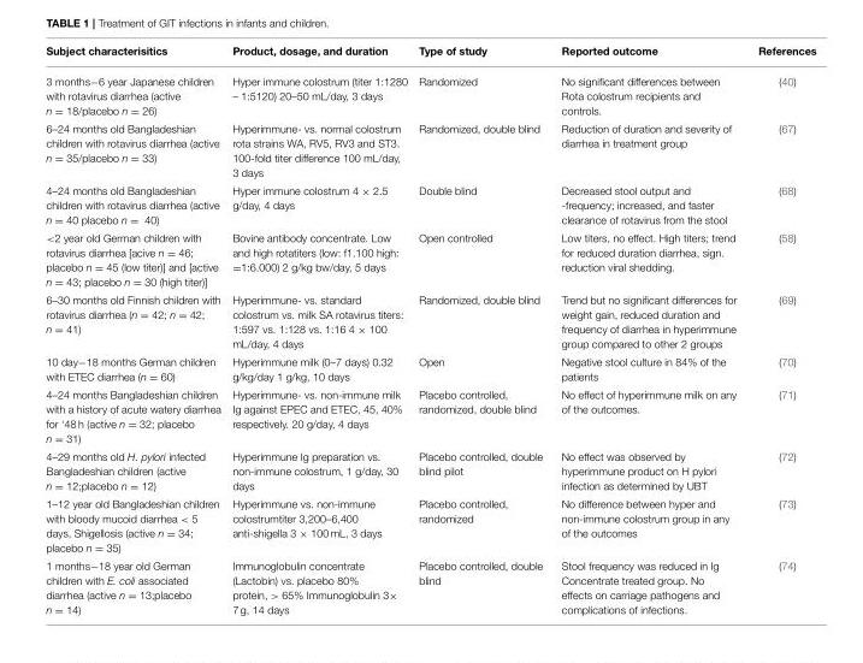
<table><thead><tr><td>Subject characterisitics</td><td>Product, dosage, and duration</td><td>Type of study</td><td>Reported outcome</td><td>References</td></tr></thead><tbody><tr><td>3 months−6 year Japanese children with rotavirus diarrhea (active n = 18/placebo n = 26)</td><td>Hyper immune colostrum (titer 1:1280 – 1:5120) 20–50 mL/day, 3 days</td><td>Randomized</td><td>No significant differences between Rota colostrum recipients and controls.</td><td>(40)</td></tr><tr><td>6–24 months old Bangladeshian children with rotavirus diarrhea (active n = 35/placebo n = 33)</td><td>Hyperimmune- vs. normal colostrum rota strains WA, RV5, RV3 and ST3. 100-fold titer difference 100 mL/day, 3 days</td><td>Randomized, double blind</td><td>Reduction of duration and severity of diarrhea in treatment group</td><td>(67)</td></tr><tr><td>4–24 months old Bangladeshian children with rotavirus diarrhea (active n = 40 placebo n = 40)</td><td>Hyper immune colostrum 4 × 2.5 g/day, 4 days</td><td>Double blind</td><td>Decreased stool output and -frequency; increased, and faster clearance of rotavirus from the stool</td><td>(68)</td></tr><tr><td>&lt;2 year old German children with rotavirus diarrhea [acive n = 46; placebo n = 45 (low titer)] and [active n = 43; placebo n = 30 (high titer)]</td><td>Bovine antibody concentrate. Low and high rotatiters (low: f1.100 high: =1:6.000) 2 g/kg bw/day, 5 days</td><td>Open controlled</td><td>Low titers, no effect. High titers; trend for reduced duration diarrhea, sign. reduction viral shedding.</td><td>(58)</td></tr><tr><td>6–30 months old Finnish children with rotavirus diarrhea (n = 42; n = 42; n = 41)</td><td>Hyperimmune- vs. standard colostrum vs. milk SA rotavirus titers: 1:597 vs. 1:128 vs. 1:16 4 × 100 mL/day, 4 days</td><td>Randomized, double blind</td><td>Trend but no significant differences for weight gain, reduced duration and frequency of diarrhea in hyperimmune group compared to other 2 groups</td><td>(69)</td></tr><tr><td>10 day−18 months German children with ETEC diarrhea (n = 60)</td><td>Hyperimmune milk (0–7 days) 0.32 g/kg/day 1 g/kg, 10 days</td><td>Open</td><td>Negative stool culture in 84% of the patients</td><td>(70)</td></tr><tr><td>4–24 months Bangladeshian children with a history of acute watery diarrhea for ‘48 h (active n = 32; placebo n = 31)</td><td>Hyperimmune- vs. non-immune milk Ig against EPEC and ETEC, 45, 40% respectively. 20 g/day, 4 days</td><td>Placebo controlled, randomized, double blind</td><td>No effect of hyperimmune milk on any of the outcomes.</td><td>(71)</td></tr><tr><td>4–29 months old H. pylori infected Bangladeshian children (active n = 12;placebo n = 12)</td><td>Hyperimmune Ig preparation vs. non-immune colostrum, 1 g/day, 30 days</td><td>Placebo controlled, double blind pilot</td><td>No effect was observed by hyperimmune product on H pylori infection as determined by UBT</td><td>(72)</td></tr><tr><td>1–12 year old Bangladeshian children with bloody mucoid diarrhea &lt; 5 days, Shigellosis (active n = 34; placebo n = 35)</td><td>Hyperimmune vs. non-immune colostrumtiter 3,200–6,400 anti-shigella 3 × 100 mL, 3 days</td><td>Placebo controlled, randomized</td><td>No difference between hyper and non-immune colostrum group in any of the outcomes</td><td>(73)</td></tr><tr><td>1 months−18 year old German children with E. coli associated diarrhea (active n = 13;placebo n = 14)</td><td>Immunoglobulin concentrate (Lactobin) vs. placebo 80% protein, &gt; 65% Immunoglobulin 3× 7 g, 14 days</td><td>Placebo controlled, double blind</td><td>Stool frequency was reduced in Ig Concentrate treated group. No effects on carriage pathogens and complications of infections.</td><td>(74)</td></tr></tbody></table>